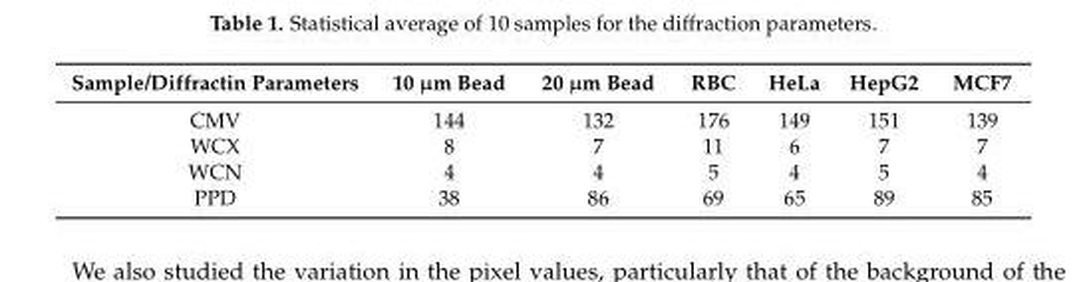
<table><thead><tr><td>Sample/Diffractin Parameters</td><td>10 µm Bead</td><td>20 µm Bead</td><td>RBC</td><td>HeLa</td><td>HepG2</td><td>MCF7</td></tr></thead><tbody><tr><td>CMV</td><td>144</td><td>132</td><td>176</td><td>149</td><td>151</td><td>139</td></tr><tr><td>WCX</td><td>8</td><td>7</td><td>11</td><td>6</td><td>7</td><td>7</td></tr><tr><td>WCN</td><td>4</td><td>4</td><td>5</td><td>4</td><td>5</td><td>4</td></tr><tr><td>PPD</td><td>38</td><td>86</td><td>69</td><td>65</td><td>89</td><td>85</td></tr></tbody></table>